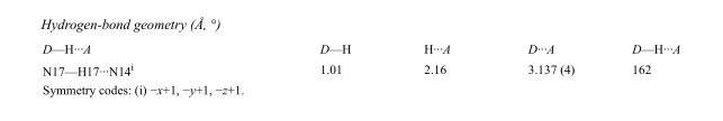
<table><tbody><tr><td>D—H···A</td><td>D—H</td><td>H···A</td><td>D···A</td><td>D—H···A</td></tr><tr><td>N17—H17···N14<sup>i</sup></td><td>1.01</td><td>2.16</td><td>3.137 (4)</td><td>162</td></tr></tbody></table>